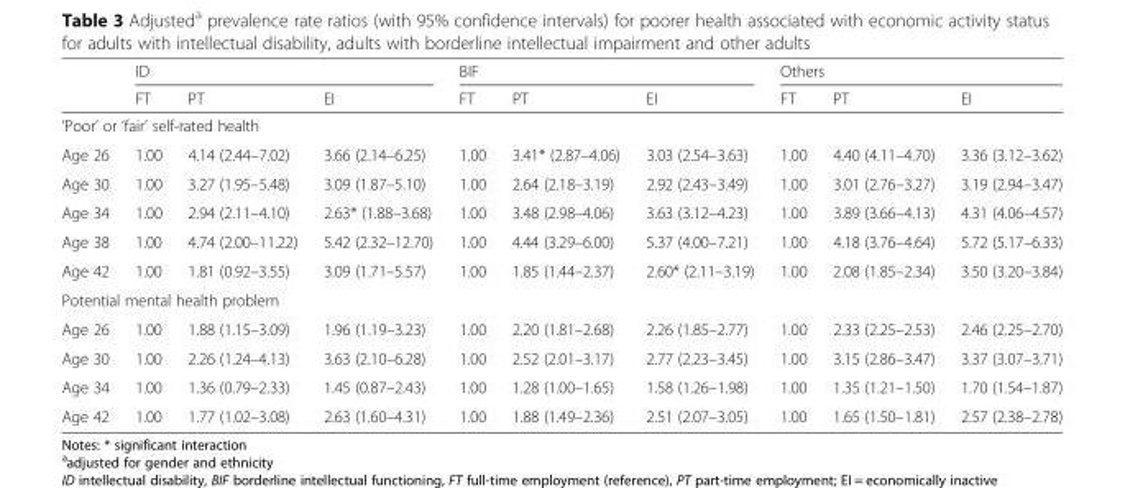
<table><thead><tr><td rowspan="2"></td><td colspan="3">ID</td><td colspan="3">BIF</td><td colspan="3">Others</td></tr><tr><td>FT</td><td>PT</td><td>EI</td><td>FT</td><td>PT</td><td>EI</td><td>FT</td><td>PT</td><td>EI</td></tr></thead><tbody><tr><td colspan="10">‘Poor’ or ‘fair’ self-rated health</td></tr><tr><td>Age 26</td><td>1.00</td><td>4.14 (2.44–7.02)</td><td>3.66 (2.14–6.25)</td><td>1.00</td><td>3.41* (2.87–4.06)</td><td>3.03 (2.54–3.63)</td><td>1.00</td><td>4.40 (4.11–4.70)</td><td>3.36 (3.12–3.62)</td></tr><tr><td>Age 30</td><td>1.00</td><td>3.27 (1.95–5.48)</td><td>3.09 (1.87–5.10)</td><td>1.00</td><td>2.64 (2.18–3.19)</td><td>2.92 (2.43–3.49)</td><td>1.00</td><td>3.01 (2.76–3.27)</td><td>3.19 (2.94–3.47)</td></tr><tr><td>Age 34</td><td>1.00</td><td>2.94 (2.11–4.10)</td><td>2.63* (1.88–3.68)</td><td>1.00</td><td>3.48 (2.98–4.06)</td><td>3.63 (3.12–4.23)</td><td>1.00</td><td>3.89 (3.66–4.13)</td><td>4.31 (4.06–4.57)</td></tr><tr><td>Age 38</td><td>1.00</td><td>4.74 (2.00–11.22)</td><td>5.42 (2.32–12.70)</td><td>1.00</td><td>4.44 (3.29–6.00)</td><td>5.37 (4.00–7.21)</td><td>1.00</td><td>4.18 (3.76–4.64)</td><td>5.72 (5.17–6.33)</td></tr><tr><td>Age 42</td><td>1.00</td><td>1.81 (0.92–3.55)</td><td>3.09 (1.71–5.57)</td><td>1.00</td><td>1.85 (1.44–2.37)</td><td>2.60* (2.11–3.19)</td><td>1.00</td><td>2.08 (1.85–2.34)</td><td>3.50 (3.20–3.84)</td></tr><tr><td colspan="10">Potential mental health problem</td></tr><tr><td>Age 26</td><td>1.00</td><td>1.88 (1.15–3.09)</td><td>1.96 (1.19–3.23)</td><td>1.00</td><td>2.20 (1.81–2.68)</td><td>2.26 (1.85–2.77)</td><td>1.00</td><td>2.33 (2.25–2.53)</td><td>2.46 (2.25–2.70)</td></tr><tr><td>Age 30</td><td>1.00</td><td>2.26 (1.24–4.13)</td><td>3.63 (2.10–6.28)</td><td>1.00</td><td>2.52 (2.01–3.17)</td><td>2.77 (2.23–3.45)</td><td>1.00</td><td>3.15 (2.86–3.47)</td><td>3.37 (3.07–3.71)</td></tr><tr><td>Age 34</td><td>1.00</td><td>1.36 (0.79–2.33)</td><td>1.45 (0.87–2.43)</td><td>1.00</td><td>1.28 (1.00–1.65)</td><td>1.58 (1.26–1.98)</td><td>1.00</td><td>1.35 (1.21–1.50)</td><td>1.70 (1.54–1.87)</td></tr><tr><td>Age 42</td><td>1.00</td><td>1.77 (1.02–3.08)</td><td>2.63 (1.60–4.31)</td><td>1.00</td><td>1.88 (1.49–2.36)</td><td>2.51 (2.07–3.05)</td><td>1.00</td><td>1.65 (1.50–1.81)</td><td>2.57 (2.38–2.78)</td></tr></tbody></table>